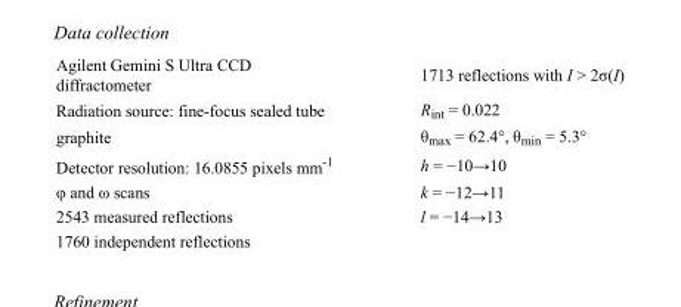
<table><tbody><tr><td>Agilent Gemini S Ultra CCD diffractometer</td><td>1713 reflections with I &gt; 2σ(I)</td></tr><tr><td>Radiation source: fine-focus sealed tube</td><td>R<sub>int</sub> = 0.022</td></tr><tr><td>graphite</td><td>θ<sub>max</sub> = 62.4°, θ<sub>min</sub> = 5.3°</td></tr><tr><td>Detector resolution: 16.0855 pixels mm<sup>-1</sup></td><td>h = −10→10</td></tr><tr><td>φ and ω scans</td><td>k = −12→11</td></tr><tr><td>2543 measured reflections</td><td>l = −14→13</td></tr><tr><td>1760 independent reflections</td><td></td></tr></tbody></table>